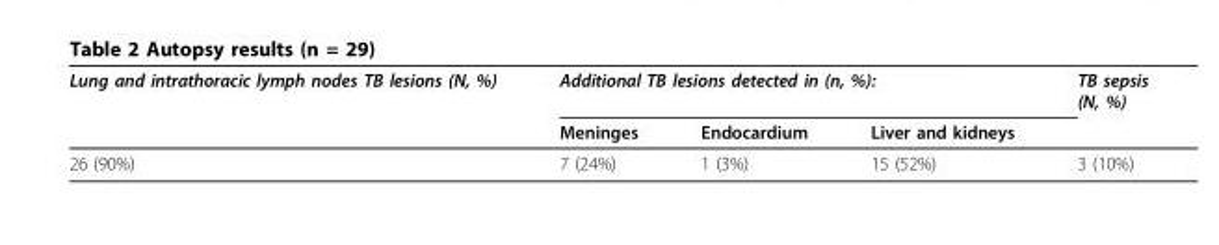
<table><thead><tr><td rowspan="2">Lung and intrathoracic lymph nodes TB lesions (N, %)</td><td colspan="3">Additional TB lesions detected in (n, %):</td><td rowspan="2">TB sepsis (N, %)</td></tr><tr><td>Meninges</td><td>Endocardium</td><td>Liver and kidneys</td></tr></thead><tbody><tr><td>26 (90%)</td><td>7 (24%)</td><td>1 (3%)</td><td>15 (52%)</td><td>3 (10%)</td></tr></tbody></table>